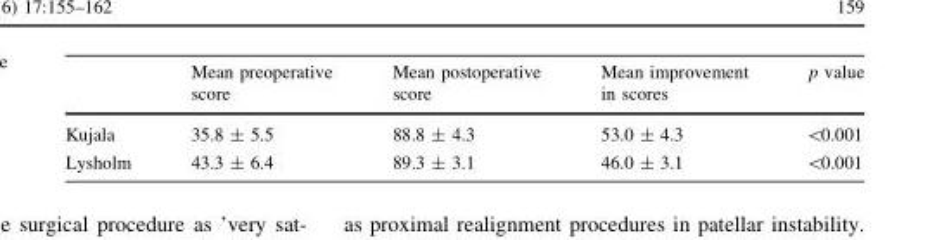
<table><thead><tr><td></td><td>Mean preoperative score</td><td>Mean postoperative score</td><td>Mean improvement in scores</td><td>p value</td></tr></thead><tbody><tr><td>Kujala</td><td>35.8 ± 5.5</td><td>88.8 ± 4.3</td><td>53.0 ± 4.3</td><td>&lt;0.001</td></tr><tr><td>Lysholm</td><td>43.3 ± 6.4</td><td>89.3 ± 3.1</td><td>46.0 ± 3.1</td><td>&lt;0.001</td></tr></tbody></table>